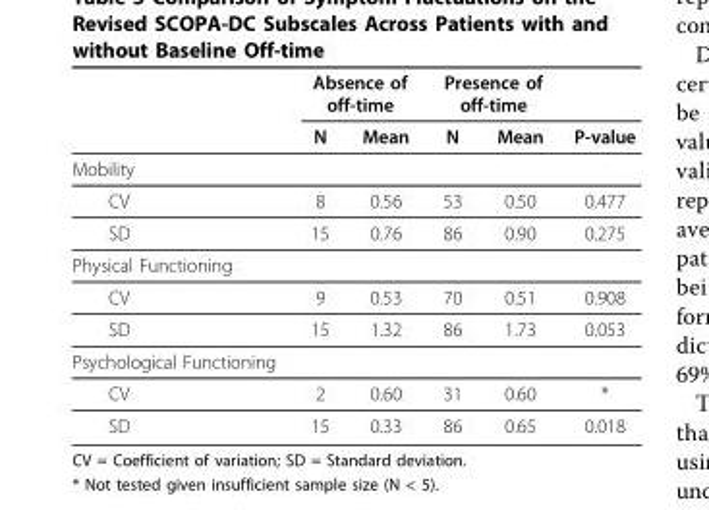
<table><thead><tr><td rowspan="2"></td><td colspan="2">Absence of off-time</td><td colspan="2">Presence of off-time</td><td rowspan="2">P-value</td></tr><tr><td>N</td><td>Mean</td><td>N</td><td>Mean</td></tr></thead><tbody><tr><td colspan="6">Mobility</td></tr><tr><td>CV</td><td>8</td><td>0.56</td><td>53</td><td>0.50</td><td>0.477</td></tr><tr><td>SD</td><td>15</td><td>0.76</td><td>86</td><td>0.90</td><td>0.275</td></tr><tr><td colspan="6">Physical Functioning</td></tr><tr><td>CV</td><td>9</td><td>0.53</td><td>70</td><td>0.51</td><td>0.908</td></tr><tr><td>SD</td><td>15</td><td>1.32</td><td>86</td><td>1.73</td><td>0.053</td></tr><tr><td colspan="6">Psychological Functioning</td></tr><tr><td>CV</td><td>2</td><td>0.60</td><td>31</td><td>0.60</td><td>*</td></tr><tr><td>SD</td><td>15</td><td>0.33</td><td>86</td><td>0.65</td><td>0.018</td></tr></tbody></table>